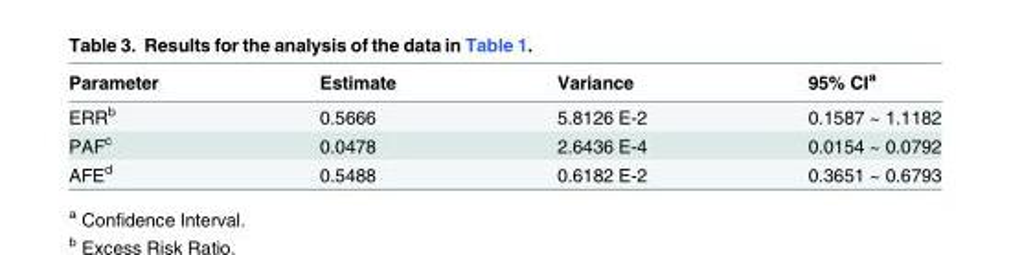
<table><thead><tr><td>Parameter</td><td>Estimate</td><td>Variance</td><td>95% CI<sup>a</sup></td></tr></thead><tbody><tr><td>ERR<sup>b</sup></td><td>0.5666</td><td>5.8126 E-2</td><td>0.1587 ~ 1.1182</td></tr><tr><td>PAF<sup>c</sup></td><td>0.0478</td><td>2.6436 E-4</td><td>0.0154 ~ 0.0792</td></tr><tr><td>AFE<sup>d</sup></td><td>0.5488</td><td>0.6182 E-2</td><td>0.3651 ~ 0.6793</td></tr></tbody></table>